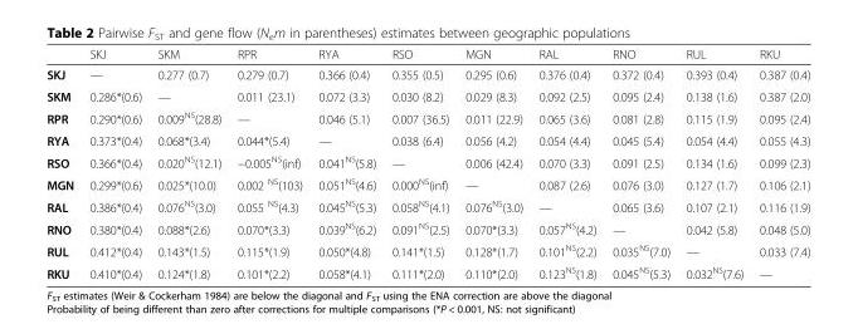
<table><thead><tr><td></td><td>SKJ</td><td>SKM</td><td>RPR</td><td>RYA</td><td>RSO</td><td>MGN</td><td>RAL</td><td>RNO</td><td>RUL</td><td>RKU</td></tr></thead><tbody><tr><td>SKJ</td><td>—</td><td>0.277 (0.7)</td><td>0.279 (0.7)</td><td>0.366 (0.4)</td><td>0.355 (0.5)</td><td>0.295 (0.6)</td><td>0.376 (0.4)</td><td>0.372 (0.4)</td><td>0.393 (0.4)</td><td>0.387 (0.4)</td></tr><tr><td>SKM</td><td>0.286*(0.6)</td><td>—</td><td>0.011 (23.1)</td><td>0.072 (3.3)</td><td>0.030 (8.2)</td><td>0.029 (8.3)</td><td>0.092 (2.5)</td><td>0.095 (2.4)</td><td>0.138 (1.6)</td><td>0.387 (2.0)</td></tr><tr><td>RPR</td><td>0.290*(0.6)</td><td>0.009<sup>NS</sup>(28.8)</td><td>—</td><td>0.046 (5.1)</td><td>0.007 (36.5)</td><td>0.011 (22.9)</td><td>0.065 (3.6)</td><td>0.081 (2.8)</td><td>0.115 (1.9)</td><td>0.095 (2.4)</td></tr><tr><td>RYA</td><td>0.373*(0.4)</td><td>0.068*(3.4)</td><td>0.044*(5.4)</td><td>—</td><td>0.038 (6.4)</td><td>0.056 (4.2)</td><td>0.054 (4.4)</td><td>0.045 (5.4)</td><td>0.054 (4.4)</td><td>0.055 (4.3)</td></tr><tr><td>RSO</td><td>0.366*(0.4)</td><td>0.020<sup>NS</sup>(12.1)</td><td>−0.005<sup>NS</sup>(inf)</td><td>0.041<sup>NS</sup>(5.8)</td><td>—</td><td>0.006 (42.4)</td><td>0.070 (3.3)</td><td>0.091 (2.5)</td><td>0.134 (1.6)</td><td>0.099 (2.3)</td></tr><tr><td>MGN</td><td>0.299*(0.6)</td><td>0.025*(10.0)</td><td>0.002 <sup>NS</sup>(103)</td><td>0.051<sup>NS</sup>(4.6)</td><td>0.000<sup>NS</sup>(inf)</td><td>—</td><td>0.087 (2.6)</td><td>0.076 (3.0)</td><td>0.127 (1.7)</td><td>0.106 (2.1)</td></tr><tr><td>RAL</td><td>0.386*(0.4)</td><td>0.076<sup>NS</sup>(3.0)</td><td>0.055 <sup>NS</sup>(4.3)</td><td>0.045<sup>NS</sup>(5.3)</td><td>0.058<sup>NS</sup>(4.1)</td><td>0.076<sup>NS</sup>(3.0)</td><td>—</td><td>0.065 (3.6)</td><td>0.107 (2.1)</td><td>0.116 (1.9)</td></tr><tr><td>RNO</td><td>0.380*(0.4)</td><td>0.088*(2.6)</td><td>0.070*(3.3)</td><td>0.039<sup>NS</sup>(6.2)</td><td>0.091<sup>NS</sup>(2.5)</td><td>0.070*(3.3)</td><td>0.057<sup>NS</sup>(4.2)</td><td>—</td><td>0.042 (5.8)</td><td>0.048 (5.0)</td></tr><tr><td>RUL</td><td>0.412*(0.4)</td><td>0.143*(1.5)</td><td>0.115*(1.9)</td><td>0.050*(4.8)</td><td>0.141*(1.5)</td><td>0.128*(1.7)</td><td>0.101<sup>NS</sup>(2.2)</td><td>0.035<sup>NS</sup>(7.0)</td><td>—</td><td>0.033 (7.4)</td></tr><tr><td>RKU</td><td>0.410*(0.4)</td><td>0.124*(1.8)</td><td>0.101*(2.2)</td><td>0.058*(4.1)</td><td>0.111*(2.0)</td><td>0.110*(2.0)</td><td>0.123<sup>NS</sup>(1.8)</td><td>0.045<sup>NS</sup>(5.3)</td><td>0.032<sup>NS</sup>(7.6)</td><td>—</td></tr></tbody></table>